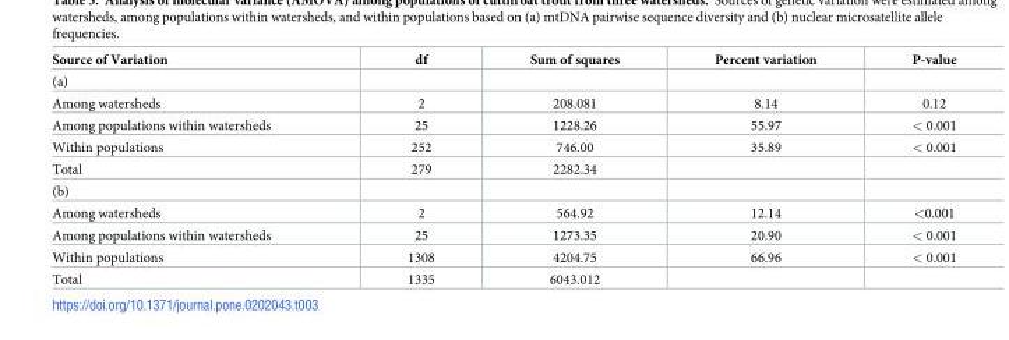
<table><thead><tr><td>Source of Variation</td><td>df</td><td>Sum of squares</td><td>Percent variation</td><td>P-value</td></tr></thead><tbody><tr><td colspan="5">(a)</td></tr><tr><td>Among watersheds</td><td>2</td><td>208.081</td><td>8.14</td><td>0.12</td></tr><tr><td>Among populations within watersheds</td><td>25</td><td>1228.26</td><td>55.97</td><td>&lt; 0.001</td></tr><tr><td>Within populations</td><td>252</td><td>746.00</td><td>35.89</td><td>&lt; 0.001</td></tr><tr><td>Total</td><td>279</td><td>2282.34</td><td></td><td></td></tr><tr><td colspan="5">(b)</td></tr><tr><td>Among watersheds</td><td>2</td><td>564.92</td><td>12.14</td><td>&lt;0.001</td></tr><tr><td>Among populations within watersheds</td><td>25</td><td>1273.35</td><td>20.90</td><td>&lt; 0.001</td></tr><tr><td>Within populations</td><td>1308</td><td>4204.75</td><td>66.96</td><td>&lt; 0.001</td></tr><tr><td>Total</td><td>1335</td><td>6043.012</td><td></td><td></td></tr></tbody></table>